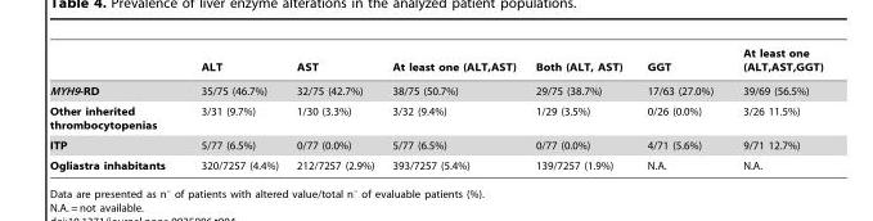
<table><thead><tr><td></td><td>ALT</td><td>AST</td><td>At least one (ALT,AST)</td><td>Both (ALT, AST)</td><td>GGT</td><td>At least one (ALT,AST,GGT)</td></tr></thead><tbody><tr><td>MYH9-RD</td><td>35/75 (46.7%)</td><td>32/75 (42.7%)</td><td>38/75 (50.7%)</td><td>29/75 (38.7%)</td><td>17/63 (27.0%)</td><td>39/69 (56.5%)</td></tr><tr><td>Other inherited thrombocytopenias</td><td>3/31 (9.7%)</td><td>1/30 (3.3%)</td><td>3/32 (9.4%)</td><td>1/29 (3.5%)</td><td>0/26 (0.0%)</td><td>3/26 11.5%)</td></tr><tr><td>ITP</td><td>5/77 (6.5%)</td><td>0/77 (0.0%)</td><td>5/77 (6.5%)</td><td>0/77 (0.0%)</td><td>4/71 (5.6%)</td><td>9/71 12.7%)</td></tr><tr><td>Ogliastra inhabitants</td><td>320/7257 (4.4%)</td><td>212/7257 (2.9%)</td><td>393/7257 (5.4%)</td><td>139/7257 (1.9%)</td><td>N.A.</td><td>N.A.</td></tr></tbody></table>